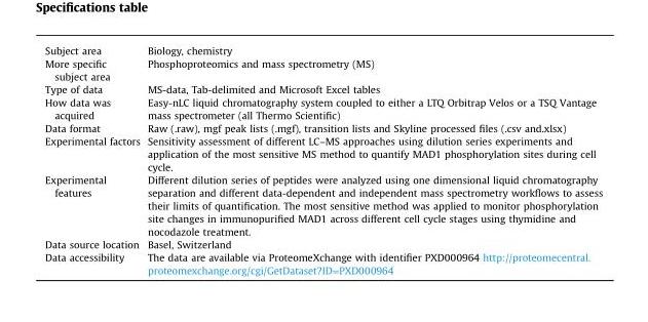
<table><tbody><tr><td>Subject area</td><td>Biology, chemistry</td></tr><tr><td>More specific subject area</td><td>Phosphoproteomics and mass spectrometry (MS)</td></tr><tr><td>Type of data</td><td>MS-data, Tab-delimited and Microsoft Excel tables</td></tr><tr><td>How data was acquired</td><td>Easy-nLC liquid chromatography system coupled to either a LTQ Orbitrap Velos or a TSQ Vantage mass spectrometer (all Thermo Scientific)</td></tr><tr><td>Data format</td><td>Raw (.raw), mgf peak lists (.mgf), transition lists and Skyline processed files (.csv and.xlsx)</td></tr><tr><td>Experimental factors</td><td>Sensitivity assessment of different LC–MS approaches using dilution series experiments and application of the most sensitive MS method to quantify MAD1 phosphorylation sites during cell cycle.</td></tr><tr><td>Experimental features</td><td>Different dilution series of peptides were analyzed using one dimensional liquid chromatography separation and different data-dependent and independent mass spectrometry workflows to assess their limits of quantification. The most sensitive method was applied to monitor phosphorylation site changes in immunopurified MAD1 across different cell cycle stages using thymidine and nocodazole treatment.</td></tr><tr><td>Data source location</td><td>Basel, Switzerland</td></tr><tr><td>Data accessibility</td><td>The data are available via ProteomeXchange with identifier PXD000964 http://proteomecentral. proteomexchange.org/cgi/GetDataset?ID=PXD000964</td></tr></tbody></table>